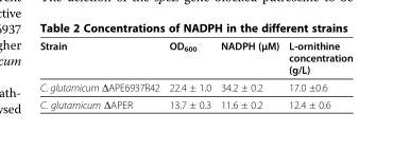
<table><thead><tr><td>Strain</td><td>OD<sub>600</sub></td><td>NADPH (μM)</td><td>L-ornithine concentration (g/L)</td></tr></thead><tbody><tr><td>C. glutamicum ΔAPE6937R42</td><td>22.4 ± 1.0</td><td>34.2 ± 0.2</td><td>17.0 ±0.6</td></tr><tr><td>C. glutamicum ΔAPER</td><td>13.7 ± 0.3</td><td>11.6 ± 0.2</td><td>12.4 ± 0.6</td></tr></tbody></table>